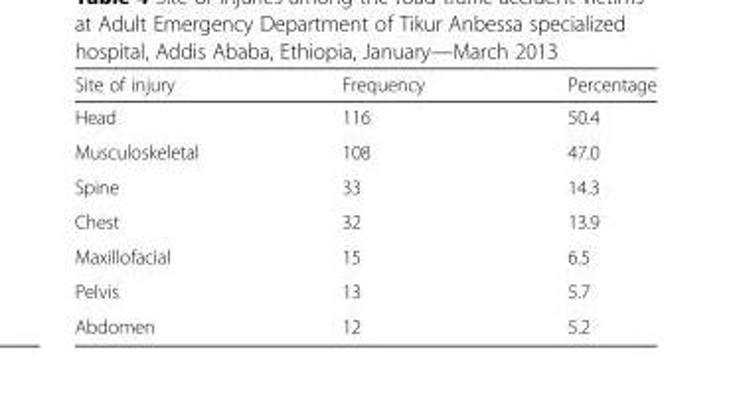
<table><thead><tr><td>Site of injury</td><td>Frequency</td><td>Percentage</td></tr></thead><tbody><tr><td>Head</td><td>116</td><td>50.4</td></tr><tr><td>Musculoskeletal</td><td>108</td><td>47.0</td></tr><tr><td>Spine</td><td>33</td><td>14.3</td></tr><tr><td>Chest</td><td>32</td><td>13.9</td></tr><tr><td>Maxillofacial</td><td>15</td><td>6.5</td></tr><tr><td>Pelvis</td><td>13</td><td>5.7</td></tr><tr><td>Abdomen</td><td>12</td><td>5.2</td></tr></tbody></table>